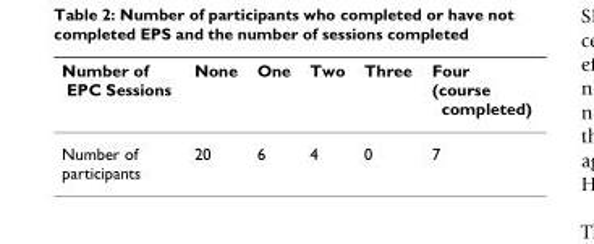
<table><thead><tr><td>Number of EPC Sessions</td><td>None</td><td>One</td><td>Two</td><td>Three</td><td>Four (course completed)</td></tr></thead><tbody><tr><td>Number of participants</td><td>20</td><td>6</td><td>4</td><td>0</td><td>7</td></tr></tbody></table>